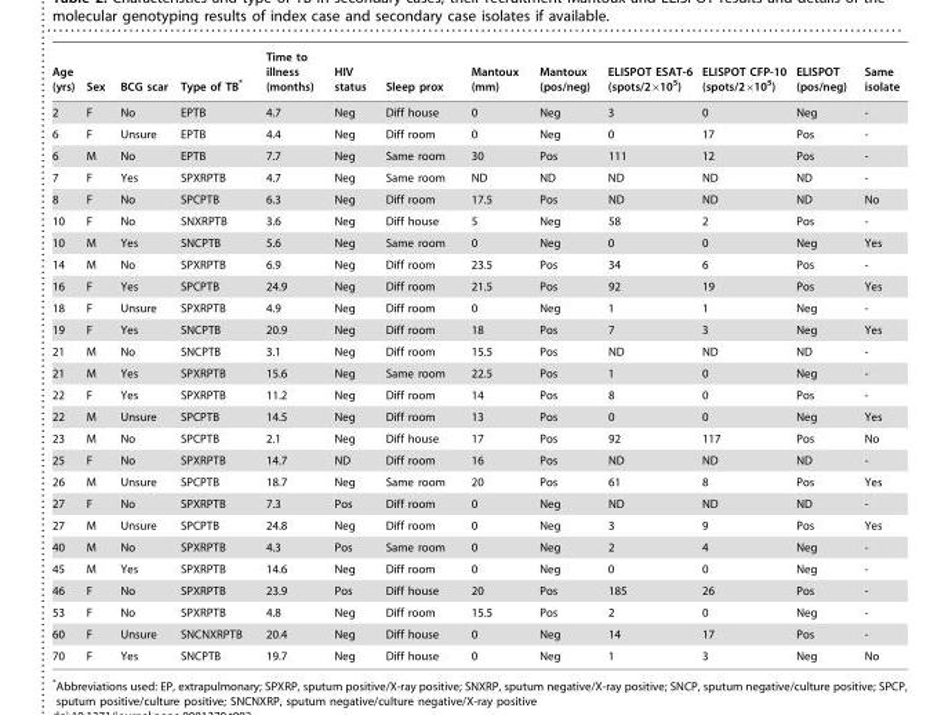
<table><thead><tr><td>Age (yrs)</td><td>Sex</td><td>BCG scar</td><td>Type of TB*</td><td>Time to illness (months)</td><td>HIV status</td><td>Sleep prox</td><td>Mantoux (mm)</td><td>Mantoux (pos/neg)</td><td>ELISPOT ESAT-6 (spots/2×10<sup>5</sup>)</td><td>ELISPOT CFP-10 (spots/2×10<sup>5</sup>)</td><td>ELISPOT (pos/neg)</td><td>Same isolate</td></tr></thead><tbody><tr><td>2</td><td>F</td><td>No</td><td>EPTB</td><td>4.7</td><td>Neg</td><td>Diff house</td><td>0</td><td>Neg</td><td>3</td><td>0</td><td>Neg</td><td>-</td></tr><tr><td>6</td><td>F</td><td>Unsure</td><td>EPTB</td><td>4.4</td><td>Neg</td><td>Diff room</td><td>0</td><td>Neg</td><td>0</td><td>17</td><td>Pos</td><td>-</td></tr><tr><td>6</td><td>M</td><td>No</td><td>EPTB</td><td>7.7</td><td>Neg</td><td>Same room</td><td>30</td><td>Pos</td><td>111</td><td>12</td><td>Pos</td><td>-</td></tr><tr><td>7</td><td>F</td><td>Yes</td><td>SPXRPTB</td><td>4.7</td><td>Neg</td><td>Same room</td><td>ND</td><td>ND</td><td>ND</td><td>ND</td><td>ND</td><td>-</td></tr><tr><td>8</td><td>F</td><td>No</td><td>SPCPTB</td><td>6.3</td><td>Neg</td><td>Diff room</td><td>17.5</td><td>Pos</td><td>ND</td><td>ND</td><td>ND</td><td>No</td></tr><tr><td>10</td><td>F</td><td>No</td><td>SNXRPTB</td><td>3.6</td><td>Neg</td><td>Diff house</td><td>5</td><td>Neg</td><td>58</td><td>2</td><td>Pos</td><td>-</td></tr><tr><td>10</td><td>M</td><td>Yes</td><td>SNCPTB</td><td>5.6</td><td>Neg</td><td>Same room</td><td>0</td><td>Neg</td><td>0</td><td>0</td><td>Neg</td><td>Yes</td></tr><tr><td>14</td><td>M</td><td>No</td><td>SPXRPTB</td><td>6.9</td><td>Neg</td><td>Diff room</td><td>23.5</td><td>Pos</td><td>34</td><td>6</td><td>Pos</td><td>-</td></tr><tr><td>16</td><td>F</td><td>Yes</td><td>SPCPTB</td><td>24.9</td><td>Neg</td><td>Diff room</td><td>21.5</td><td>Pos</td><td>92</td><td>19</td><td>Pos</td><td>Yes</td></tr><tr><td>18</td><td>F</td><td>Unsure</td><td>SPXRPTB</td><td>4.9</td><td>Neg</td><td>Diff room</td><td>0</td><td>Neg</td><td>1</td><td>1</td><td>Neg</td><td>-</td></tr><tr><td>19</td><td>F</td><td>Yes</td><td>SNCPTB</td><td>20.9</td><td>Neg</td><td>Diff room</td><td>18</td><td>Pos</td><td>7</td><td>3</td><td>Neg</td><td>Yes</td></tr><tr><td>21</td><td>M</td><td>No</td><td>SNCPTB</td><td>3.1</td><td>Neg</td><td>Diff room</td><td>15.5</td><td>Pos</td><td>ND</td><td>ND</td><td>ND</td><td>-</td></tr><tr><td>21</td><td>M</td><td>Yes</td><td>SPXRPTB</td><td>15.6</td><td>Neg</td><td>Same room</td><td>22.5</td><td>Pos</td><td>1</td><td>0</td><td>Neg</td><td>-</td></tr><tr><td>22</td><td>F</td><td>Yes</td><td>SPXRPTB</td><td>11.2</td><td>Neg</td><td>Diff room</td><td>14</td><td>Pos</td><td>8</td><td>0</td><td>Pos</td><td>-</td></tr><tr><td>22</td><td>M</td><td>Unsure</td><td>SPCPTB</td><td>14.5</td><td>Neg</td><td>Diff room</td><td>13</td><td>Pos</td><td>0</td><td>0</td><td>Neg</td><td>Yes</td></tr><tr><td>23</td><td>M</td><td>No</td><td>SPCPTB</td><td>2.1</td><td>Neg</td><td>Diff house</td><td>17</td><td>Pos</td><td>92</td><td>117</td><td>Pos</td><td>No</td></tr><tr><td>25</td><td>F</td><td>No</td><td>SPXRPTB</td><td>14.7</td><td>ND</td><td>Diff room</td><td>16</td><td>Pos</td><td>ND</td><td>ND</td><td>ND</td><td>-</td></tr><tr><td>26</td><td>M</td><td>Unsure</td><td>SPCPTB</td><td>18.7</td><td>Neg</td><td>Same room</td><td>20</td><td>Pos</td><td>61</td><td>8</td><td>Pos</td><td>Yes</td></tr><tr><td>27</td><td>F</td><td>No</td><td>SPXRPTB</td><td>7.3</td><td>Pos</td><td>Diff room</td><td>0</td><td>Neg</td><td>ND</td><td>ND</td><td>ND</td><td>-</td></tr><tr><td>27</td><td>M</td><td>Unsure</td><td>SPCPTB</td><td>24.8</td><td>Neg</td><td>Diff room</td><td>0</td><td>Neg</td><td>3</td><td>9</td><td>Pos</td><td>Yes</td></tr><tr><td>40</td><td>M</td><td>No</td><td>SPXRPTB</td><td>4.3</td><td>Pos</td><td>Same room</td><td>0</td><td>Neg</td><td>2</td><td>4</td><td>Neg</td><td>-</td></tr><tr><td>45</td><td>M</td><td>Yes</td><td>SPXRPTB</td><td>14.6</td><td>Neg</td><td>Diff room</td><td>0</td><td>Neg</td><td>0</td><td>0</td><td>Neg</td><td>-</td></tr><tr><td>46</td><td>F</td><td>No</td><td>SPXRPTB</td><td>23.9</td><td>Pos</td><td>Diff house</td><td>20</td><td>Pos</td><td>185</td><td>26</td><td>Pos</td><td>-</td></tr><tr><td>53</td><td>F</td><td>No</td><td>SPXRPTB</td><td>4.8</td><td>Neg</td><td>Diff room</td><td>15.5</td><td>Pos</td><td>2</td><td>0</td><td>Neg</td><td>-</td></tr><tr><td>60</td><td>F</td><td>Unsure</td><td>SNCNXRPTB</td><td>20.4</td><td>Neg</td><td>Diff house</td><td>0</td><td>Neg</td><td>14</td><td>17</td><td>Pos</td><td>-</td></tr><tr><td>70</td><td>F</td><td>Yes</td><td>SNCPTB</td><td>19.7</td><td>Neg</td><td>Diff house</td><td>0</td><td>Neg</td><td>1</td><td>3</td><td>Neg</td><td>No</td></tr></tbody></table>